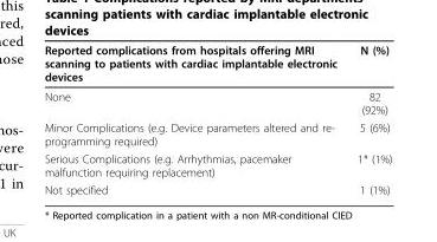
<table><thead><tr><td>Reported complications from hospitals offering MRI scanning to patients with cardiac implantable electronic devices</td><td>N (%)</td></tr></thead><tbody><tr><td>None</td><td>82 (92%)</td></tr><tr><td>Minor Complications (e.g. Device parameters altered and re- programming required)</td><td>5 (6%)</td></tr><tr><td>Serious Complications (e.g. Arrhythmias, pacemaker malfunction requiring replacement)</td><td>1* (1%)</td></tr><tr><td>Not specified</td><td>1 (1%)</td></tr></tbody></table>